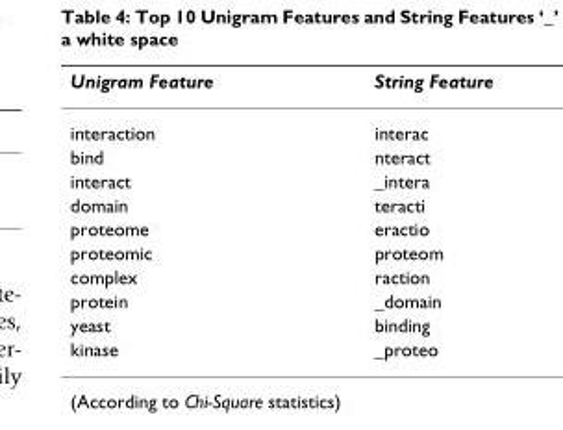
<table><thead><tr><td>Unigram Feature</td><td>String Feature</td></tr></thead><tbody><tr><td>interaction</td><td>interac</td></tr><tr><td>bind</td><td>nteract</td></tr><tr><td>interact</td><td>_intera</td></tr><tr><td>domain</td><td>teracti</td></tr><tr><td>proteome</td><td>eractio</td></tr><tr><td>proteomic</td><td>proteom</td></tr><tr><td>complex</td><td>raction</td></tr><tr><td>protein</td><td>_domain</td></tr><tr><td>yeast</td><td>binding</td></tr><tr><td>kinase</td><td>_proteo</td></tr></tbody></table>